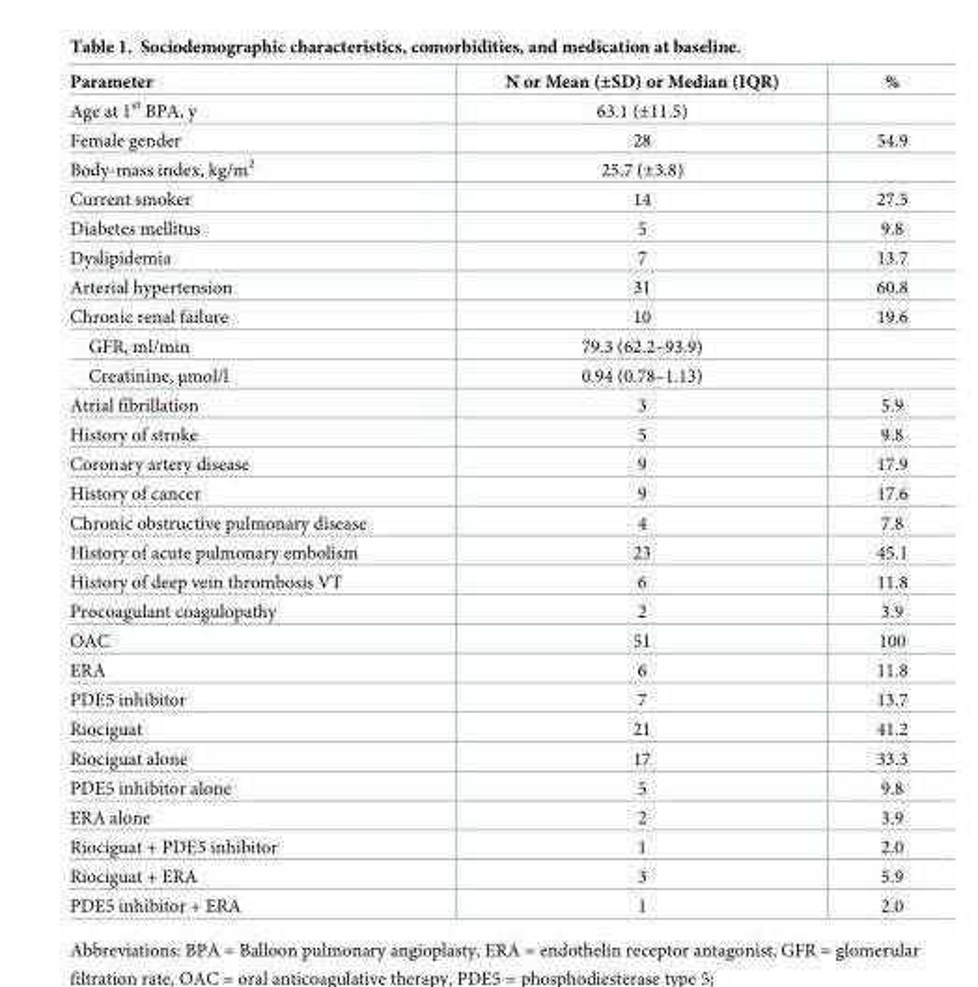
<table><thead><tr><td>Parameter</td><td>N or Mean (±SD) or Median (IQR)</td><td>%</td></tr></thead><tbody><tr><td>Age at 1<sup>st</sup> BPA, y</td><td>63.1 (±11.5)</td><td></td></tr><tr><td>Female gender</td><td>28</td><td>54.9</td></tr><tr><td>Body-mass index, kg/m<sup>2</sup></td><td>25.7 (±3.8)</td><td></td></tr><tr><td>Current smoker</td><td>14</td><td>27.5</td></tr><tr><td>Diabetes mellitus</td><td>5</td><td>9.8</td></tr><tr><td>Dyslipidemia</td><td>7</td><td>13.7</td></tr><tr><td>Arterial hypertension</td><td>31</td><td>60.8</td></tr><tr><td>Chronic renal failure</td><td>10</td><td>19.6</td></tr><tr><td>GFR, ml/min</td><td>79.3 (62.2–93.9)</td><td></td></tr><tr><td>Creatinine, μmol/l</td><td>0.94 (0.78–1.13)</td><td></td></tr><tr><td>Atrial fibrillation</td><td>3</td><td>5.9</td></tr><tr><td>History of stroke</td><td>5</td><td>9.8</td></tr><tr><td>Coronary artery disease</td><td>9</td><td>17.9</td></tr><tr><td>History of cancer</td><td>9</td><td>17.6</td></tr><tr><td>Chronic obstructive pulmonary disease</td><td>4</td><td>7.8</td></tr><tr><td>History of acute pulmonary embolism</td><td>23</td><td>45.1</td></tr><tr><td>History of deep vein thrombosis VT</td><td>6</td><td>11.8</td></tr><tr><td>Procoagulant coagulopathy</td><td>2</td><td>3.9</td></tr><tr><td>OAC</td><td>51</td><td>100</td></tr><tr><td>ERA</td><td>6</td><td>11.8</td></tr><tr><td>PDE5 inhibitor</td><td>7</td><td>13.7</td></tr><tr><td>Riociguat</td><td>21</td><td>41.2</td></tr><tr><td>Riociguat alone</td><td>17</td><td>33.3</td></tr><tr><td>PDE5 inhibitor alone</td><td>5</td><td>9.8</td></tr><tr><td>ERA alone</td><td>2</td><td>3.9</td></tr><tr><td>Riociguat + PDE5 inhibitor</td><td>1</td><td>2.0</td></tr><tr><td>Riociguat + ERA</td><td>3</td><td>5.9</td></tr><tr><td>PDE5 inhibitor + ERA</td><td>1</td><td>2.0</td></tr></tbody></table>